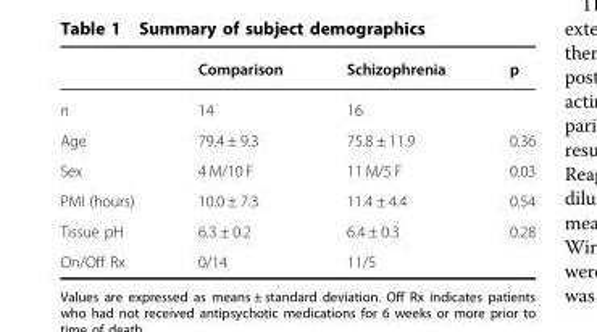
<table><thead><tr><td></td><td>Comparison</td><td>Schizophrenia</td><td>p</td></tr></thead><tbody><tr><td>n</td><td>14</td><td>16</td><td></td></tr><tr><td>Age</td><td>79.4 ± 9.3</td><td>75.8 ± 11.9</td><td>0.36</td></tr><tr><td>Sex</td><td>4 M/10 F</td><td>11 M/5 F</td><td>0.03</td></tr><tr><td>PMI (hours)</td><td>10.0 ± 7.3</td><td>11.4 ± 4.4</td><td>0.54</td></tr><tr><td>Tissue pH</td><td>6.3 ± 0.2</td><td>6.4 ± 0.3</td><td>0.28</td></tr><tr><td>On/Off Rx</td><td>0/14</td><td>11/5</td><td></td></tr></tbody></table>